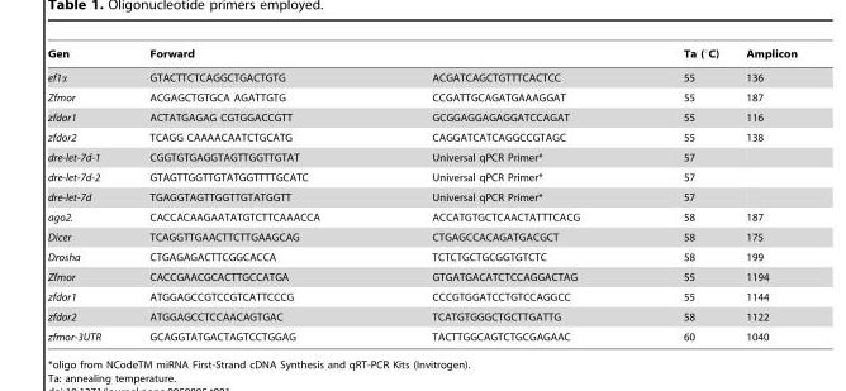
<table><thead><tr><td>Gen</td><td>Forward</td><td></td><td>Ta (°C)</td><td>Amplicon</td></tr></thead><tbody><tr><td>ef1α</td><td>GTACTTCTCAGGCTGACTGTG</td><td>ACGATCAGCTGTTTCACTCC</td><td>55</td><td>136</td></tr><tr><td>Zfmor</td><td>ACGAGCTGTGCA AGATTGTG</td><td>CCGATTGCAGATGAAAGGAT</td><td>55</td><td>187</td></tr><tr><td>zfdor1</td><td>ACTATGAGAG CGTGGACCGTT</td><td>GCGGAGGAGAGGATCCAGAT</td><td>55</td><td>116</td></tr><tr><td>zfdor2</td><td>TCAGG CAAAACAATCTGCATG</td><td>CAGGATCATCAGGCCGTAGC</td><td>55</td><td>138</td></tr><tr><td>dre-let-7d-1</td><td>CGGTGTGAGGTAGTTGGTTGTAT</td><td>Universal qPCR Primer*</td><td>57</td><td></td></tr><tr><td>dre-let-7d-2</td><td>GTAGTTGGTTGTATGGTTTTGCATC</td><td>Universal qPCR Primer*</td><td>57</td><td></td></tr><tr><td>dre-let-7d</td><td>TGAGGTAGTTGGTTGTATGGTT</td><td>Universal qPCR Primer*</td><td>57</td><td></td></tr><tr><td>ago2.</td><td>CACCACAAGAATATGTCTTCAAACCA</td><td>ACCATGTGCTCAACTATTTCACG</td><td>58</td><td>187</td></tr><tr><td>Dicer</td><td>TCAGGTTGAACTTCTTGAAGCAG</td><td>CTGAGCCACAGATGACGCT</td><td>58</td><td>175</td></tr><tr><td>Drosha</td><td>CTGAGAGACTTCGGCACCA</td><td>TCTCTGCTGCGGTGTCTC</td><td>58</td><td>199</td></tr><tr><td>Zfmor</td><td>CACCGAACGCACTTGCCATGA</td><td>GTGATGACATCTCCAGGACTAG</td><td>55</td><td>1194</td></tr><tr><td>zfdor1</td><td>ATGGAGCCGTCCGTCATTCCCG</td><td>CCCGTGGATCCTGTCCAGGCC</td><td>55</td><td>1144</td></tr><tr><td>zfdor2</td><td>ATGGAGCCTCCAACAGTGAC</td><td>TCATGTGGGCTGCTTGATTG</td><td>58</td><td>1122</td></tr><tr><td>zfmor-3UTR</td><td>GCAGGTATGACTAGTCCTGGAG</td><td>TACTTGGCAGTCTGCGAGAAC</td><td>60</td><td>1040</td></tr></tbody></table>